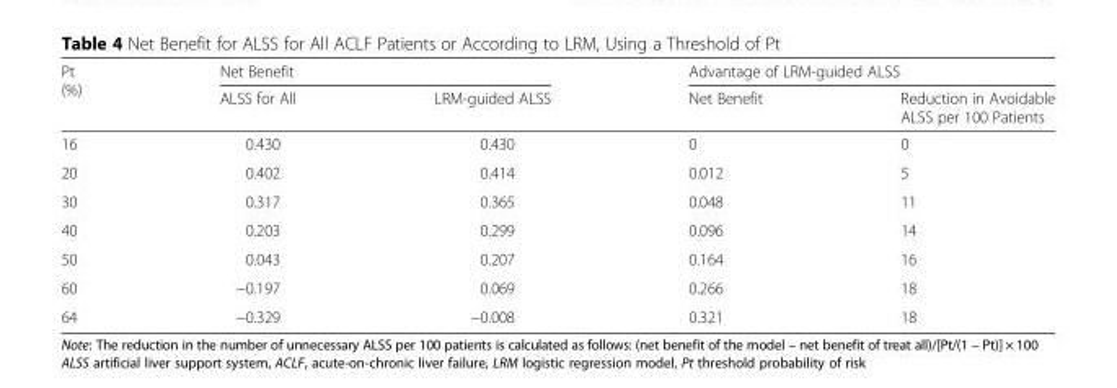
<table><thead><tr><td rowspan="2">Pt (%)</td><td colspan="2">Net Benefit</td><td colspan="2">Advantage of LRM-guided ALSS</td></tr><tr><td>ALSS for All</td><td>LRM-guided ALSS</td><td>Net Benefit</td><td>Reduction in Avoidable ALSS per 100 Patients</td></tr></thead><tbody><tr><td>16</td><td>0.430</td><td>0.430</td><td>0</td><td>0</td></tr><tr><td>20</td><td>0.402</td><td>0.414</td><td>0.012</td><td>5</td></tr><tr><td>30</td><td>0.317</td><td>0.365</td><td>0.048</td><td>11</td></tr><tr><td>40</td><td>0.203</td><td>0.299</td><td>0.096</td><td>14</td></tr><tr><td>50</td><td>0.043</td><td>0.207</td><td>0.164</td><td>16</td></tr><tr><td>60</td><td>−0.197</td><td>0.069</td><td>0.266</td><td>18</td></tr><tr><td>64</td><td>−0.329</td><td>−0.008</td><td>0.321</td><td>18</td></tr></tbody></table>